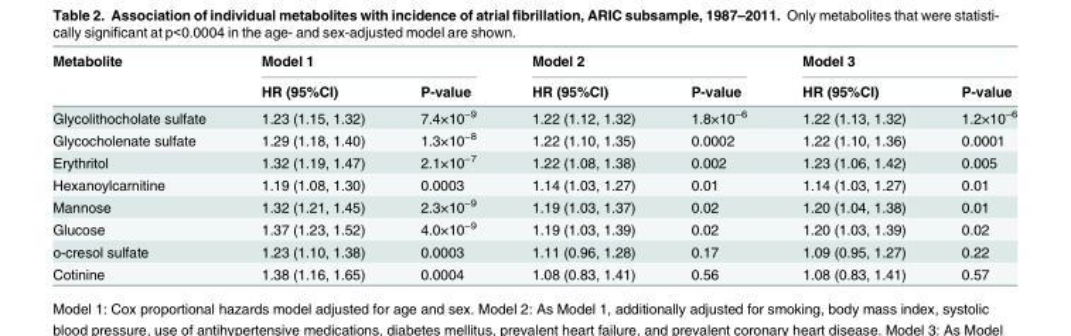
<table><thead><tr><td rowspan="2">Metabolite</td><td colspan="2">Model 1</td><td colspan="2">Model 2</td><td colspan="2">Model 3</td></tr><tr><td>HR (95%CI)</td><td>P-value</td><td>HR (95%CI)</td><td>P-value</td><td>HR (95%CI)</td><td>P-value</td></tr></thead><tbody><tr><td>Glycolithocholate sulfate</td><td>1.23 (1.15, 1.32)</td><td>7.4×10<sup>−9</sup></td><td>1.22 (1.12, 1.32)</td><td>1.8×10<sup>−6</sup></td><td>1.22 (1.13, 1.32)</td><td>1.2×10<sup>−6</sup></td></tr><tr><td>Glycocholenate sulfate</td><td>1.29 (1.18, 1.40)</td><td>1.3×10<sup>−8</sup></td><td>1.22 (1.10, 1.35)</td><td>0.0002</td><td>1.22 (1.10, 1.36)</td><td>0.0001</td></tr><tr><td>Erythritol</td><td>1.32 (1.19, 1.47)</td><td>2.1×10<sup>−7</sup></td><td>1.22 (1.08, 1.38)</td><td>0.002</td><td>1.23 (1.06, 1.42)</td><td>0.005</td></tr><tr><td>Hexanoylcarnitine</td><td>1.19 (1.08, 1.30)</td><td>0.0003</td><td>1.14 (1.03, 1.27)</td><td>0.01</td><td>1.14 (1.03, 1.27)</td><td>0.01</td></tr><tr><td>Mannose</td><td>1.32 (1.21, 1.45)</td><td>2.3×10<sup>−9</sup></td><td>1.19 (1.03, 1.37)</td><td>0.02</td><td>1.20 (1.04, 1.38)</td><td>0.01</td></tr><tr><td>Glucose</td><td>1.37 (1.23, 1.52)</td><td>4.0×10<sup>−9</sup></td><td>1.19 (1.03, 1.39)</td><td>0.02</td><td>1.20 (1.03, 1.39)</td><td>0.02</td></tr><tr><td>o-cresol sulfate</td><td>1.23 (1.10, 1.38)</td><td>0.0003</td><td>1.11 (0.96, 1.28)</td><td>0.17</td><td>1.09 (0.95, 1.27)</td><td>0.22</td></tr><tr><td>Cotinine</td><td>1.38 (1.16, 1.65)</td><td>0.0004</td><td>1.08 (0.83, 1.41)</td><td>0.56</td><td>1.08 (0.83, 1.41)</td><td>0.57</td></tr></tbody></table>